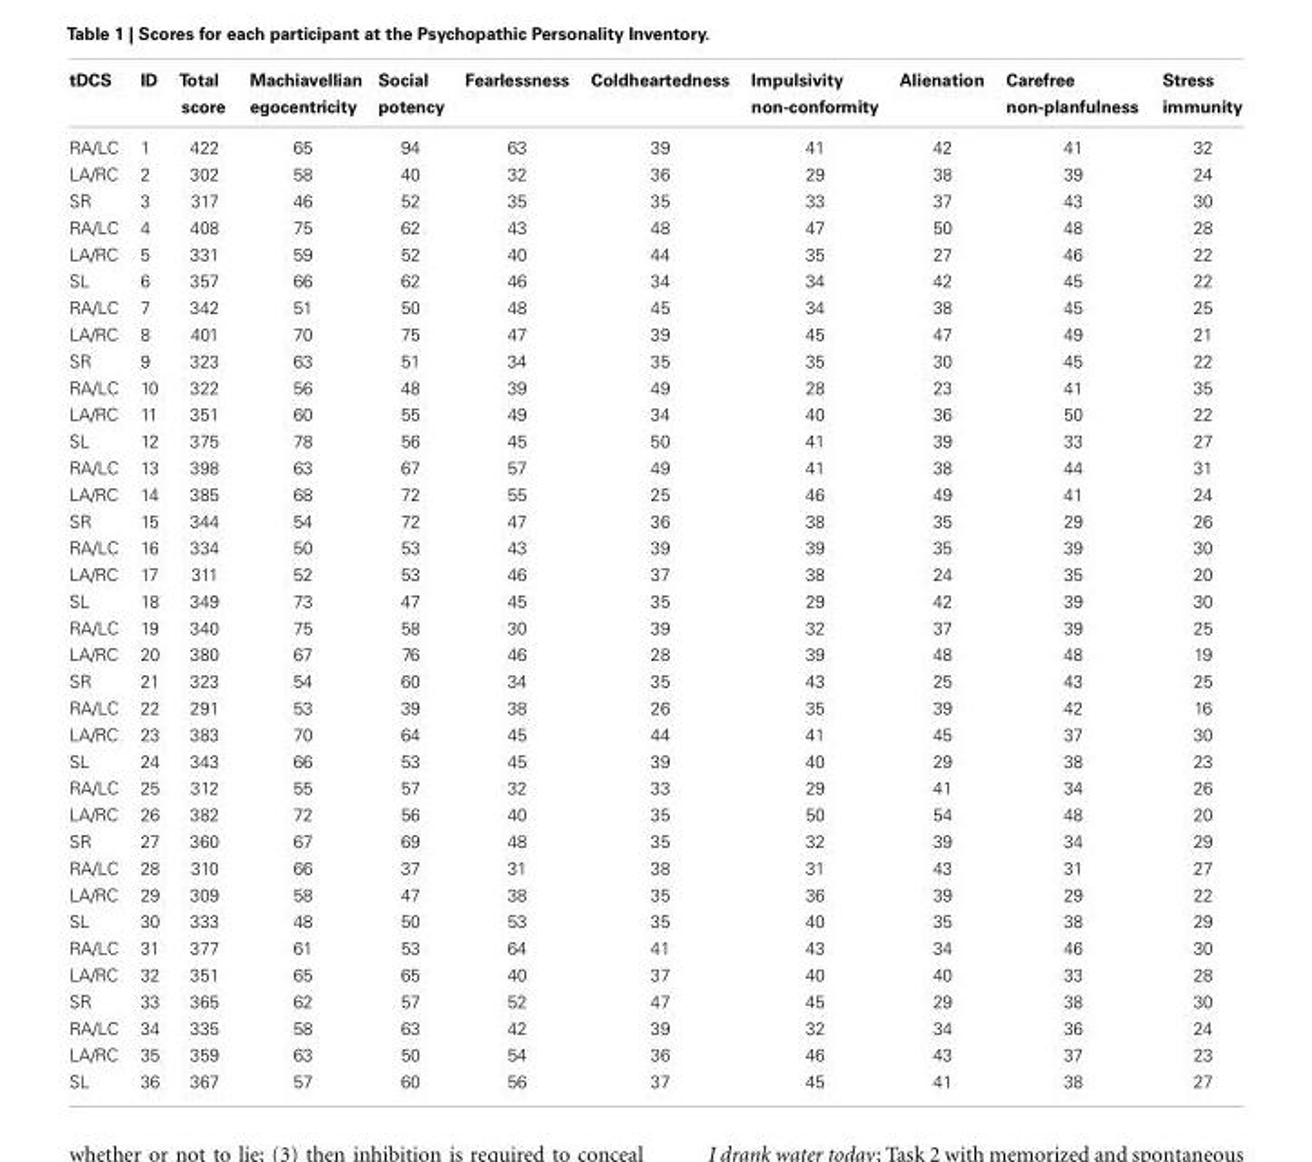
<table><thead><tr><td>tDCS</td><td>ID</td><td>Total score</td><td>Machiavellian egocentricity</td><td>Social potency</td><td>Fearlessness</td><td>Coldheartedness</td><td>Impulsivity non-conformity</td><td>Alienation</td><td>Carefree non-planfulness</td><td>Stress immunity</td></tr></thead><tbody><tr><td>RA/LC</td><td>1</td><td>422</td><td>65</td><td>94</td><td>63</td><td>39</td><td>41</td><td>42</td><td>41</td><td>32</td></tr><tr><td>LA/RC</td><td>2</td><td>302</td><td>58</td><td>40</td><td>32</td><td>36</td><td>29</td><td>38</td><td>39</td><td>24</td></tr><tr><td>SR</td><td>3</td><td>317</td><td>46</td><td>52</td><td>35</td><td>35</td><td>33</td><td>37</td><td>43</td><td>30</td></tr><tr><td>RA/LC</td><td>4</td><td>408</td><td>75</td><td>62</td><td>43</td><td>48</td><td>47</td><td>50</td><td>48</td><td>28</td></tr><tr><td>LA/RC</td><td>5</td><td>331</td><td>59</td><td>52</td><td>40</td><td>44</td><td>35</td><td>27</td><td>46</td><td>22</td></tr><tr><td>SL</td><td>6</td><td>357</td><td>66</td><td>62</td><td>46</td><td>34</td><td>34</td><td>42</td><td>45</td><td>22</td></tr><tr><td>RA/LC</td><td>7</td><td>342</td><td>51</td><td>50</td><td>48</td><td>45</td><td>34</td><td>38</td><td>45</td><td>25</td></tr><tr><td>LA/RC</td><td>8</td><td>401</td><td>70</td><td>75</td><td>47</td><td>39</td><td>45</td><td>47</td><td>49</td><td>21</td></tr><tr><td>SR</td><td>9</td><td>323</td><td>63</td><td>51</td><td>34</td><td>35</td><td>35</td><td>30</td><td>45</td><td>22</td></tr><tr><td>RA/LC</td><td>10</td><td>322</td><td>56</td><td>48</td><td>39</td><td>49</td><td>28</td><td>23</td><td>41</td><td>35</td></tr><tr><td>LA/RC</td><td>11</td><td>351</td><td>60</td><td>55</td><td>49</td><td>34</td><td>40</td><td>36</td><td>50</td><td>22</td></tr><tr><td>SL</td><td>12</td><td>375</td><td>78</td><td>56</td><td>45</td><td>50</td><td>41</td><td>39</td><td>33</td><td>27</td></tr><tr><td>RA/LC</td><td>13</td><td>398</td><td>63</td><td>67</td><td>57</td><td>49</td><td>41</td><td>38</td><td>44</td><td>31</td></tr><tr><td>LA/RC</td><td>14</td><td>385</td><td>68</td><td>72</td><td>55</td><td>25</td><td>46</td><td>49</td><td>41</td><td>24</td></tr><tr><td>SR</td><td>15</td><td>344</td><td>54</td><td>72</td><td>47</td><td>36</td><td>38</td><td>35</td><td>29</td><td>26</td></tr><tr><td>RA/LC</td><td>16</td><td>334</td><td>50</td><td>53</td><td>43</td><td>39</td><td>39</td><td>35</td><td>39</td><td>30</td></tr><tr><td>LA/RC</td><td>17</td><td>311</td><td>52</td><td>53</td><td>46</td><td>37</td><td>38</td><td>24</td><td>35</td><td>20</td></tr><tr><td>SL</td><td>18</td><td>349</td><td>73</td><td>47</td><td>45</td><td>35</td><td>29</td><td>42</td><td>39</td><td>30</td></tr><tr><td>RA/LC</td><td>19</td><td>340</td><td>75</td><td>58</td><td>30</td><td>39</td><td>32</td><td>37</td><td>39</td><td>25</td></tr><tr><td>LA/RC</td><td>20</td><td>380</td><td>67</td><td>76</td><td>46</td><td>28</td><td>39</td><td>48</td><td>48</td><td>19</td></tr><tr><td>SR</td><td>21</td><td>323</td><td>54</td><td>60</td><td>34</td><td>35</td><td>43</td><td>25</td><td>43</td><td>25</td></tr><tr><td>RA/LC</td><td>22</td><td>291</td><td>53</td><td>39</td><td>38</td><td>26</td><td>35</td><td>39</td><td>42</td><td>16</td></tr><tr><td>LA/RC</td><td>23</td><td>383</td><td>70</td><td>64</td><td>45</td><td>44</td><td>41</td><td>45</td><td>37</td><td>30</td></tr><tr><td>SL</td><td>24</td><td>343</td><td>66</td><td>53</td><td>45</td><td>39</td><td>40</td><td>29</td><td>38</td><td>23</td></tr><tr><td>RA/LC</td><td>25</td><td>312</td><td>55</td><td>57</td><td>32</td><td>33</td><td>29</td><td>41</td><td>34</td><td>26</td></tr><tr><td>LA/RC</td><td>26</td><td>382</td><td>72</td><td>56</td><td>40</td><td>35</td><td>50</td><td>54</td><td>48</td><td>20</td></tr><tr><td>SR</td><td>27</td><td>360</td><td>67</td><td>69</td><td>48</td><td>35</td><td>32</td><td>39</td><td>34</td><td>29</td></tr><tr><td>RA/LC</td><td>28</td><td>310</td><td>66</td><td>37</td><td>31</td><td>38</td><td>31</td><td>43</td><td>31</td><td>27</td></tr><tr><td>LA/RC</td><td>29</td><td>309</td><td>58</td><td>47</td><td>38</td><td>35</td><td>36</td><td>39</td><td>29</td><td>22</td></tr><tr><td>SL</td><td>30</td><td>333</td><td>48</td><td>50</td><td>53</td><td>35</td><td>40</td><td>35</td><td>38</td><td>29</td></tr><tr><td>RA/LC</td><td>31</td><td>377</td><td>61</td><td>53</td><td>64</td><td>41</td><td>43</td><td>34</td><td>46</td><td>30</td></tr><tr><td>LA/RC</td><td>32</td><td>351</td><td>65</td><td>65</td><td>40</td><td>37</td><td>40</td><td>40</td><td>33</td><td>28</td></tr><tr><td>SR</td><td>33</td><td>365</td><td>62</td><td>57</td><td>52</td><td>47</td><td>45</td><td>29</td><td>38</td><td>30</td></tr><tr><td>RA/LC</td><td>34</td><td>335</td><td>58</td><td>63</td><td>42</td><td>39</td><td>32</td><td>34</td><td>36</td><td>24</td></tr><tr><td>LA/RC</td><td>35</td><td>359</td><td>63</td><td>50</td><td>54</td><td>36</td><td>46</td><td>43</td><td>37</td><td>23</td></tr><tr><td>SL</td><td>36</td><td>367</td><td>57</td><td>60</td><td>56</td><td>37</td><td>45</td><td>41</td><td>38</td><td>27</td></tr></tbody></table>